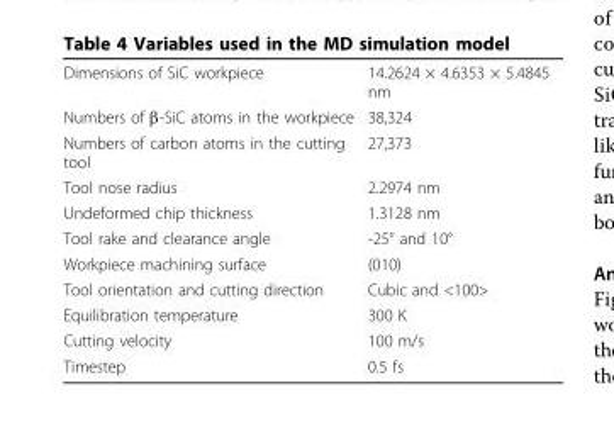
<table><tbody><tr><td>Dimensions of SiC workpiece</td><td>14.2624 × 4.6353 × 5.4845 nm</td></tr><tr><td>Numbers of β-SiC atoms in the workpiece</td><td>38,324</td></tr><tr><td>Numbers of carbon atoms in the cutting tool</td><td>27,373</td></tr><tr><td>Tool nose radius</td><td>2.2974 nm</td></tr><tr><td>Undeformed chip thickness</td><td>1.3128 nm</td></tr><tr><td>Tool rake and clearance angle</td><td>-25° and 10°</td></tr><tr><td>Workpiece machining surface</td><td>(010)</td></tr><tr><td>Tool orientation and cutting direction</td><td>Cubic and &lt;100&gt;</td></tr><tr><td>Equilibration temperature</td><td>300 K</td></tr><tr><td>Cutting velocity</td><td>100 m/s</td></tr><tr><td>Timestep</td><td>0.5 fs</td></tr></tbody></table>